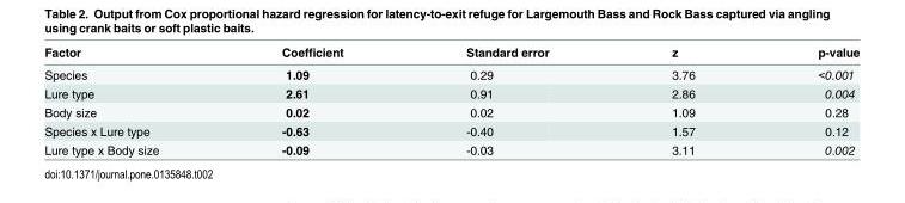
<table><thead><tr><td>Factor</td><td>Coefficient</td><td>Standard error</td><td>z</td><td>p-value</td></tr></thead><tbody><tr><td>Species</td><td>1.09</td><td>0.29</td><td>3.76</td><td>&lt;0.001</td></tr><tr><td>Lure type</td><td>2.61</td><td>0.91</td><td>2.86</td><td>0.004</td></tr><tr><td>Body size</td><td>0.02</td><td>0.02</td><td>1.09</td><td>0.28</td></tr><tr><td>Species x Lure type</td><td>-0.63</td><td>-0.40</td><td>1.57</td><td>0.12</td></tr><tr><td>Lure type x Body size</td><td>-0.09</td><td>-0.03</td><td>3.11</td><td>0.002</td></tr></tbody></table>